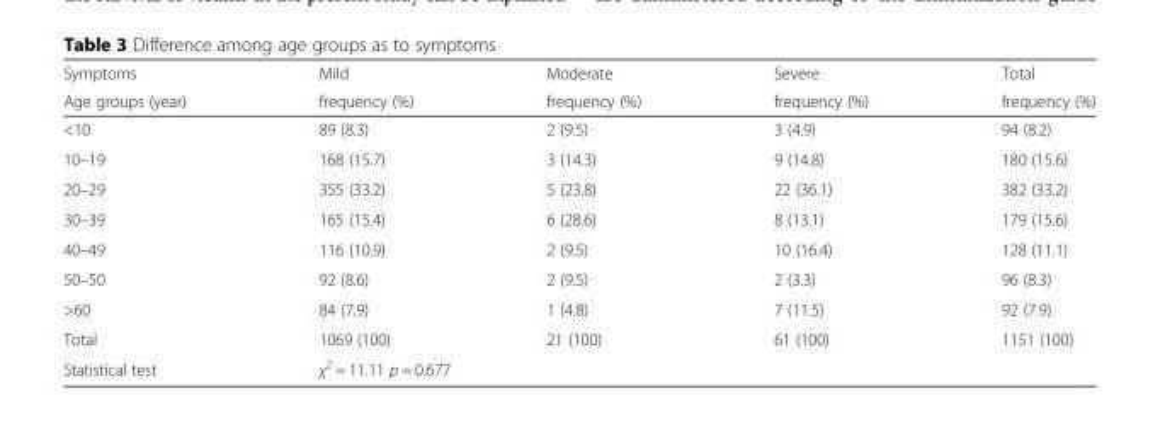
<table><thead><tr><td rowspan="2">Symptoms Age groups (year)</td><td rowspan="2">Mild frequency (%)</td><td rowspan="2">Moderate frequency (%)</td><td rowspan="2">Severe frequency (%)</td><td rowspan="2">Total frequency (%)</td></tr><tr></tr></thead><tbody><tr><td>&lt;10</td><td>89 (8.3)</td><td>2 (9.5)</td><td>3 (4.9)</td><td>94 (8.2)</td></tr><tr><td>10–19</td><td>168 (15.7)</td><td>3 (14.3)</td><td>9 (14.8)</td><td>180 (15.6)</td></tr><tr><td>20–29</td><td>355 (33.2)</td><td>5 (23.8)</td><td>22 (36.1)</td><td>382 (33.2)</td></tr><tr><td>30–39</td><td>165 (15.4)</td><td>6 (28.6)</td><td>8 (13.1)</td><td>179 (15.6)</td></tr><tr><td>40–49</td><td>116 (10.9)</td><td>2 (9.5)</td><td>10 (16.4)</td><td>128 (11.1)</td></tr><tr><td>50–50</td><td>92 (8.6)</td><td>2 (9.5)</td><td>2 (3.3)</td><td>96 (8.3)</td></tr><tr><td>&gt;60</td><td>84 (7.9)</td><td>1 (4.8)</td><td>7 (11.5)</td><td>92 (7.9)</td></tr><tr><td>Total</td><td>1069 (100)</td><td>21 (100)</td><td>61 (100)</td><td>1151 (100)</td></tr><tr><td>Statistical test</td><td colspan="4">χ<sup>2</sup> = 11.11 p = 0.677</td></tr></tbody></table>